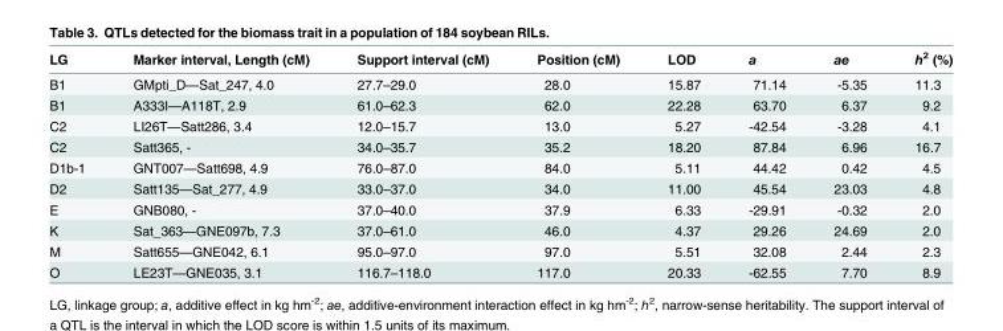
<table><thead><tr><td>LG</td><td>Marker interval, Length (cM)</td><td>Support interval (cM)</td><td>Position (cM)</td><td>LOD</td><td>a</td><td>ae</td><td>h<sup>2</sup> (%)</td></tr></thead><tbody><tr><td>B1</td><td>GMpti_D—Sat_247, 4.0</td><td>27.7–29.0</td><td>28.0</td><td>15.87</td><td>71.14</td><td>-5.35</td><td>11.3</td></tr><tr><td>B1</td><td>A333I—A118T, 2.9</td><td>61.0–62.3</td><td>62.0</td><td>22.28</td><td>63.70</td><td>6.37</td><td>9.2</td></tr><tr><td>C2</td><td>LI26T—Satt286, 3.4</td><td>12.0–15.7</td><td>13.0</td><td>5.27</td><td>-42.54</td><td>-3.28</td><td>4.1</td></tr><tr><td>C2</td><td>Satt365, -</td><td>34.0–35.7</td><td>35.2</td><td>18.20</td><td>87.84</td><td>6.96</td><td>16.7</td></tr><tr><td>D1b-1</td><td>GNT007—Satt698, 4.9</td><td>76.0–87.0</td><td>84.0</td><td>5.11</td><td>44.42</td><td>0.42</td><td>4.5</td></tr><tr><td>D2</td><td>Satt135—Sat_277, 4.9</td><td>33.0–37.0</td><td>34.0</td><td>11.00</td><td>45.54</td><td>23.03</td><td>4.8</td></tr><tr><td>E</td><td>GNB080, -</td><td>37.0–40.0</td><td>37.9</td><td>6.33</td><td>-29.91</td><td>-0.32</td><td>2.0</td></tr><tr><td>K</td><td>Sat_363—GNE097b, 7.3</td><td>37.0–61.0</td><td>46.0</td><td>4.37</td><td>29.26</td><td>24.69</td><td>2.0</td></tr><tr><td>M</td><td>Satt655—GNE042, 6.1</td><td>95.0–97.0</td><td>97.0</td><td>5.51</td><td>32.08</td><td>2.44</td><td>2.3</td></tr><tr><td>O</td><td>LE23T—GNE035, 3.1</td><td>116.7–118.0</td><td>117.0</td><td>20.33</td><td>-62.55</td><td>7.70</td><td>8.9</td></tr></tbody></table>